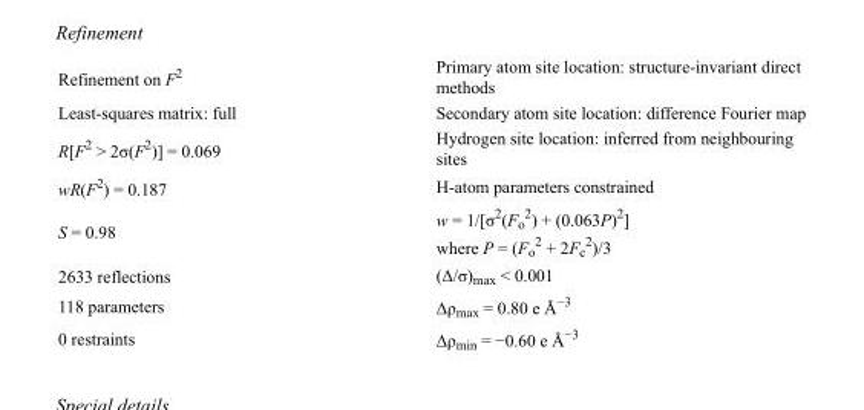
<table><tbody><tr><td>Refinement on F<sup>2</sup></td><td>Primary atom site location: structure-invariant direct methods</td></tr><tr><td>Least-squares matrix: full</td><td>Secondary atom site location: difference Fourier map</td></tr><tr><td>R[F<sup>2</sup> &gt; 2σ(F<sup>2</sup>)] = 0.069</td><td>Hydrogen site location: inferred from neighbouring sites</td></tr><tr><td>wR(F<sup>2</sup>) = 0.187</td><td>H-atom parameters constrained</td></tr><tr><td>S = 0.98</td><td>w = 1/[σ<sup>2</sup>(F<sub>o</sub> <sup>2</sup>) + (0.063P)<sup>2</sup>] where P = (F<sub>o</sub> <sup>2</sup> + 2F<sub>c</sub> <sup>2</sup>)/3</td></tr><tr><td>2633 reflections</td><td>(Δ/σ)<sub>max</sub> &lt; 0.001</td></tr><tr><td>118 parameters</td><td>Δρ<sub>max</sub> = 0.80 e Å<sup>−3</sup></td></tr><tr><td>0 restraints</td><td>Δρ<sub>min</sub> = −0.60 e Å<sup>−3</sup></td></tr></tbody></table>